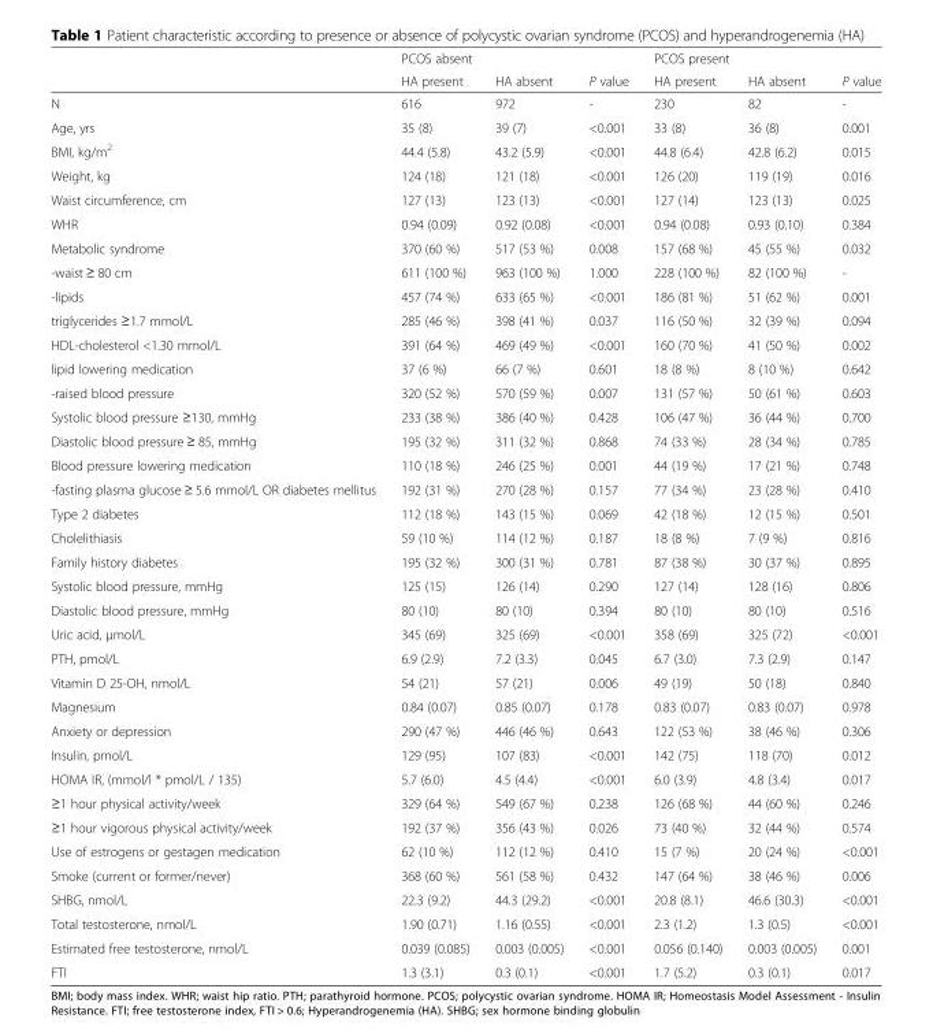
<table><thead><tr><td rowspan="2"></td><td colspan="2">PCOS absent</td><td rowspan="2">P value</td><td colspan="2">PCOS present</td><td rowspan="2">P value</td></tr><tr><td>HA present</td><td>HA absent</td><td>HA present</td><td>HA absent</td></tr></thead><tbody><tr><td>N</td><td>616</td><td>972</td><td>-</td><td>230</td><td>82</td><td>-</td></tr><tr><td>Age, yrs</td><td>35 (8)</td><td>39 (7)</td><td>&lt;0.001</td><td>33 (8)</td><td>36 (8)</td><td>0.001</td></tr><tr><td>BMI, kg/m<sup>2</sup></td><td>44.4 (5.8)</td><td>43.2 (5.9)</td><td>&lt;0.001</td><td>44.8 (6.4)</td><td>42.8 (6.2)</td><td>0.015</td></tr><tr><td>Weight, kg</td><td>124 (18)</td><td>121 (18)</td><td>&lt;0.001</td><td>126 (20)</td><td>119 (19)</td><td>0.016</td></tr><tr><td>Waist circumference, cm</td><td>127 (13)</td><td>123 (13)</td><td>&lt;0.001</td><td>127 (14)</td><td>123 (13)</td><td>0.025</td></tr><tr><td>WHR</td><td>0.94 (0.09)</td><td>0.92 (0.08)</td><td>&lt;0.001</td><td>0.94 (0.08)</td><td>0.93 (0.10)</td><td>0.384</td></tr><tr><td>Metabolic syndrome</td><td>370 (60 %)</td><td>517 (53 %)</td><td>0.008</td><td>157 (68 %)</td><td>45 (55 %)</td><td>0.032</td></tr><tr><td>-waist ≥ 80 cm</td><td>611 (100 %)</td><td>963 (100 %)</td><td>1.000</td><td>228 (100 %)</td><td>82 (100 %)</td><td>-</td></tr><tr><td>-lipids</td><td>457 (74 %)</td><td>633 (65 %)</td><td>&lt;0.001</td><td>186 (81 %)</td><td>51 (62 %)</td><td>0.001</td></tr><tr><td>triglycerides ≥1.7 mmol/L</td><td>285 (46 %)</td><td>398 (41 %)</td><td>0.037</td><td>116 (50 %)</td><td>32 (39 %)</td><td>0.094</td></tr><tr><td>HDL-cholesterol &lt;1.30 mmol/L</td><td>391 (64 %)</td><td>469 (49 %)</td><td>&lt;0.001</td><td>160 (70 %)</td><td>41 (50 %)</td><td>0.002</td></tr><tr><td>lipid lowering medication</td><td>37 (6 %)</td><td>66 (7 %)</td><td>0.601</td><td>18 (8 %)</td><td>8 (10 %)</td><td>0.642</td></tr><tr><td>-raised blood pressure</td><td>320 (52 %)</td><td>570 (59 %)</td><td>0.007</td><td>131 (57 %)</td><td>50 (61 %)</td><td>0.603</td></tr><tr><td>Systolic blood pressure ≥130, mmHg</td><td>233 (38 %)</td><td>386 (40 %)</td><td>0.428</td><td>106 (47 %)</td><td>36 (44 %)</td><td>0.700</td></tr><tr><td>Diastolic blood pressure ≥ 85, mmHg</td><td>195 (32 %)</td><td>311 (32 %)</td><td>0.868</td><td>74 (33 %)</td><td>28 (34 %)</td><td>0.785</td></tr><tr><td>Blood pressure lowering medication</td><td>110 (18 %)</td><td>246 (25 %)</td><td>0.001</td><td>44 (19 %)</td><td>17 (21 %)</td><td>0.748</td></tr><tr><td>-fasting plasma glucose ≥ 5.6 mmol/L OR diabetes mellitus</td><td>192 (31 %)</td><td>270 (28 %)</td><td>0.157</td><td>77 (34 %)</td><td>23 (28 %)</td><td>0.410</td></tr><tr><td>Type 2 diabetes</td><td>112 (18 %)</td><td>143 (15 %)</td><td>0.069</td><td>42 (18 %)</td><td>12 (15 %)</td><td>0.501</td></tr><tr><td>Cholelithiasis</td><td>59 (10 %)</td><td>114 (12 %)</td><td>0.187</td><td>18 (8 %)</td><td>7 (9 %)</td><td>0.816</td></tr><tr><td>Family history diabetes</td><td>195 (32 %)</td><td>300 (31 %)</td><td>0.781</td><td>87 (38 %)</td><td>30 (37 %)</td><td>0.895</td></tr><tr><td>Systolic blood pressure, mmHg</td><td>125 (15)</td><td>126 (14)</td><td>0.290</td><td>127 (14)</td><td>128 (16)</td><td>0.806</td></tr><tr><td>Diastolic blood pressure, mmHg</td><td>80 (10)</td><td>80 (10)</td><td>0.394</td><td>80 (10)</td><td>80 (10)</td><td>0.516</td></tr><tr><td>Uric acid, μmol/L</td><td>345 (69)</td><td>325 (69)</td><td>&lt;0.001</td><td>358 (69)</td><td>325 (72)</td><td>&lt;0.001</td></tr><tr><td>PTH, pmol/L</td><td>6.9 (2.9)</td><td>7.2 (3.3)</td><td>0.045</td><td>6.7 (3.0)</td><td>7.3 (2.9)</td><td>0.147</td></tr><tr><td>Vitamin D 25-OH, nmol/L</td><td>54 (21)</td><td>57 (21)</td><td>0.006</td><td>49 (19)</td><td>50 (18)</td><td>0.840</td></tr><tr><td>Magnesium</td><td>0.84 (0.07)</td><td>0.85 (0.07)</td><td>0.178</td><td>0.83 (0.07)</td><td>0.83 (0.07)</td><td>0.978</td></tr><tr><td>Anxiety or depression</td><td>290 (47 %)</td><td>446 (46 %)</td><td>0.643</td><td>122 (53 %)</td><td>38 (46 %)</td><td>0.306</td></tr><tr><td>Insulin, pmol/L</td><td>129 (95)</td><td>107 (83)</td><td>&lt;0.001</td><td>142 (75)</td><td>118 (70)</td><td>0.012</td></tr><tr><td>HOMA IR, (mmol/l * pmol/L / 135)</td><td>5.7 (6.0)</td><td>4.5 (4.4)</td><td>&lt;0.001</td><td>6.0 (3.9)</td><td>4.8 (3.4)</td><td>0.017</td></tr><tr><td>≥1 hour physical activity/week</td><td>329 (64 %)</td><td>549 (67 %)</td><td>0.238</td><td>126 (68 %)</td><td>44 (60 %)</td><td>0.246</td></tr><tr><td>≥1 hour vigorous physical activity/week</td><td>192 (37 %)</td><td>356 (43 %)</td><td>0.026</td><td>73 (40 %)</td><td>32 (44 %)</td><td>0.574</td></tr><tr><td>Use of estrogens or gestagen medication</td><td>62 (10 %)</td><td>112 (12 %)</td><td>0.410</td><td>15 (7 %)</td><td>20 (24 %)</td><td>&lt;0.001</td></tr><tr><td>Smoke (current or former/never)</td><td>368 (60 %)</td><td>561 (58 %)</td><td>0.432</td><td>147 (64 %)</td><td>38 (46 %)</td><td>0.006</td></tr><tr><td>SHBG, nmol/L</td><td>22.3 (9.2)</td><td>44.3 (29.2)</td><td>&lt;0.001</td><td>20.8 (8.1)</td><td>46.6 (30.3)</td><td>&lt;0.001</td></tr><tr><td>Total testosterone, nmol/L</td><td>1.90 (0.71)</td><td>1.16 (0.55)</td><td>&lt;0.001</td><td>2.3 (1.2)</td><td>1.3 (0.5)</td><td>&lt;0.001</td></tr><tr><td>Estimated free testosterone, nmol/L</td><td>0.039 (0.085)</td><td>0.003 (0.005)</td><td>&lt;0.001</td><td>0.056 (0.140)</td><td>0.003 (0.005)</td><td>0.001</td></tr><tr><td>FTI</td><td>1.3 (3.1)</td><td>0.3 (0.1)</td><td>&lt;0.001</td><td>1.7 (5.2)</td><td>0.3 (0.1)</td><td>0.017</td></tr></tbody></table>